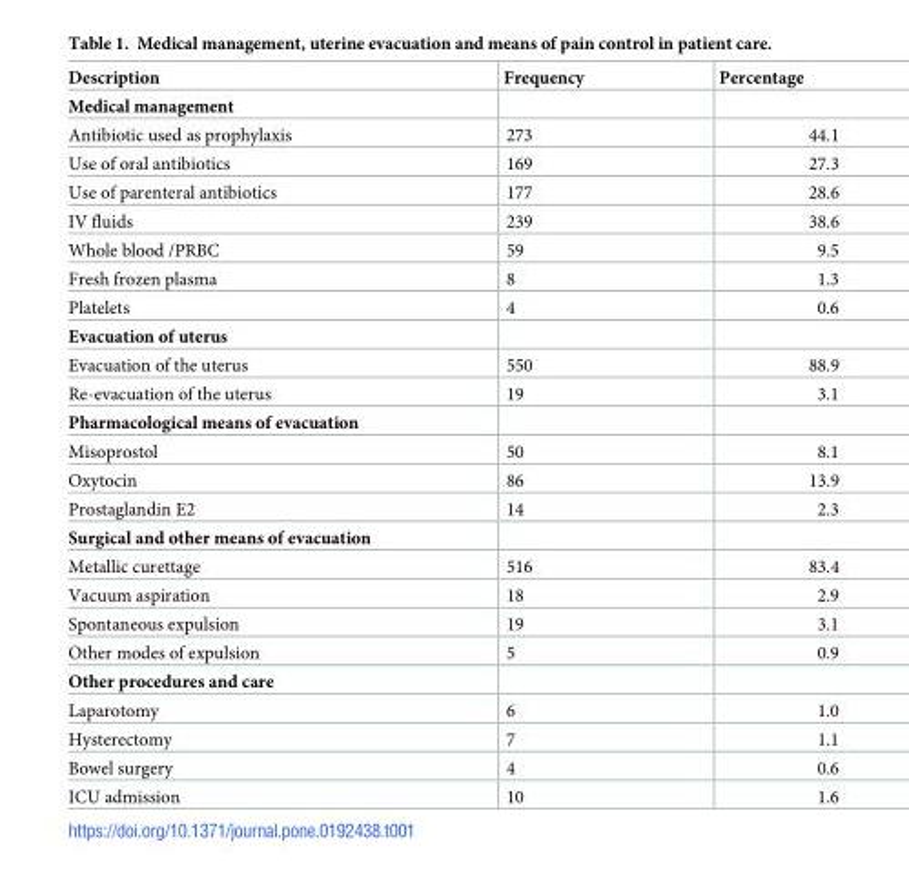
<table><thead><tr><td>Description</td><td>Frequency</td><td>Percentage</td></tr></thead><tbody><tr><td colspan="3">Medical management</td></tr><tr><td>Antibiotic used as prophylaxis</td><td>273</td><td>44.1</td></tr><tr><td>Use of oral antibiotics</td><td>169</td><td>27.3</td></tr><tr><td>Use of parenteral antibiotics</td><td>177</td><td>28.6</td></tr><tr><td>IV fluids</td><td>239</td><td>38.6</td></tr><tr><td>Whole blood /PRBC</td><td>59</td><td>9.5</td></tr><tr><td>Fresh frozen plasma</td><td>8</td><td>1.3</td></tr><tr><td>Platelets</td><td>4</td><td>0.6</td></tr><tr><td colspan="3">Evacuation of uterus</td></tr><tr><td>Evacuation of the uterus</td><td>550</td><td>88.9</td></tr><tr><td>Re-evacuation of the uterus</td><td>19</td><td>3.1</td></tr><tr><td colspan="3">Pharmacological means of evacuation</td></tr><tr><td>Misoprostol</td><td>50</td><td>8.1</td></tr><tr><td>Oxytocin</td><td>86</td><td>13.9</td></tr><tr><td>Prostaglandin E2</td><td>14</td><td>2.3</td></tr><tr><td colspan="3">Surgical and other means of evacuation</td></tr><tr><td>Metallic curettage</td><td>516</td><td>83.4</td></tr><tr><td>Vacuum aspiration</td><td>18</td><td>2.9</td></tr><tr><td>Spontaneous expulsion</td><td>19</td><td>3.1</td></tr><tr><td>Other modes of expulsion</td><td>5</td><td>0.9</td></tr><tr><td colspan="3">Other procedures and care</td></tr><tr><td>Laparotomy</td><td>6</td><td>1.0</td></tr><tr><td>Hysterectomy</td><td>7</td><td>1.1</td></tr><tr><td>Bowel surgery</td><td>4</td><td>0.6</td></tr><tr><td>ICU admission</td><td>10</td><td>1.6</td></tr></tbody></table>